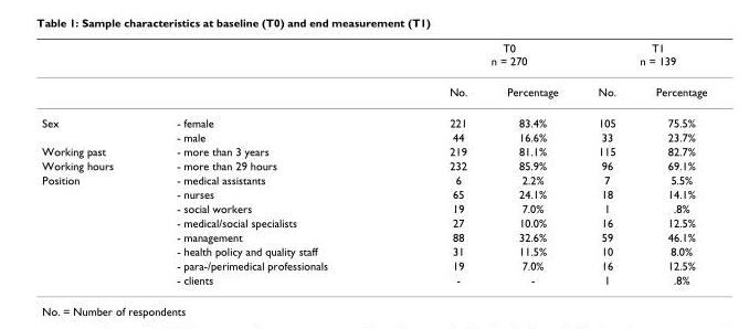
<table><thead><tr><td rowspan="2"></td><td rowspan="2"></td><td colspan="2">T0 n = 270</td><td colspan="2">T1 n = 139</td></tr><tr><td>No.</td><td>Percentage</td><td>No.</td><td>Percentage</td></tr></thead><tbody><tr><td rowspan="2">Sex</td><td>- female</td><td>221</td><td>83.4%</td><td>105</td><td>75.5%</td></tr><tr><td>- male</td><td>44</td><td>16.6%</td><td>33</td><td>23.7%</td></tr><tr><td>Working past</td><td>- more than 3 years</td><td>219</td><td>81.1%</td><td>115</td><td>82.7%</td></tr><tr><td>Working hours</td><td>- more than 29 hours</td><td>232</td><td>85.9%</td><td>96</td><td>69.1%</td></tr><tr><td rowspan="8">Position</td><td>- medical assistants</td><td>6</td><td>2.2%</td><td>7</td><td>5.5%</td></tr><tr><td>- nurses</td><td>65</td><td>24.1%</td><td>18</td><td>14.1%</td></tr><tr><td>- social workers</td><td>19</td><td>7.0%</td><td>1</td><td>.8%</td></tr><tr><td>- medical/social specialists</td><td>27</td><td>10.0%</td><td>16</td><td>12.5%</td></tr><tr><td>- management</td><td>88</td><td>32.6%</td><td>59</td><td>46.1%</td></tr><tr><td>- health policy and quality staff</td><td>31</td><td>11.5%</td><td>10</td><td>8.0%</td></tr><tr><td>- para-/perimedical professionals</td><td>19</td><td>7.0%</td><td>16</td><td>12.5%</td></tr><tr><td>- clients</td><td>-</td><td>-</td><td>1</td><td>.8%</td></tr></tbody></table>